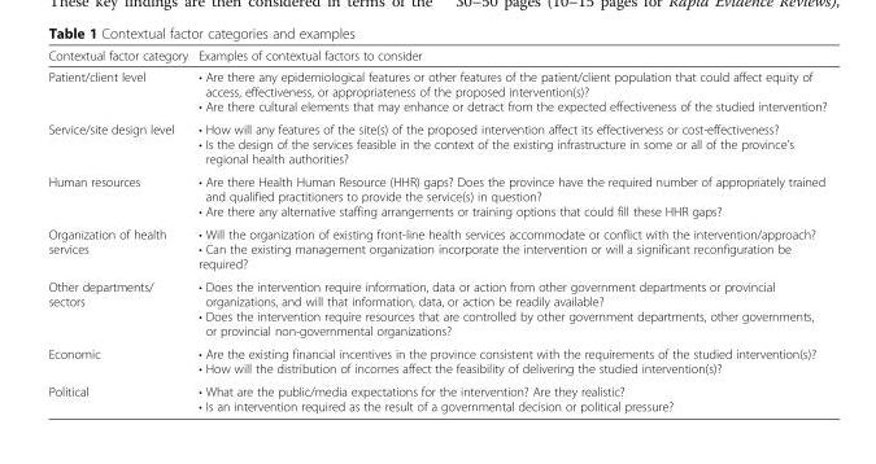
<table><thead><tr><td>Contextual factor category</td><td>Examples of contextual factors to consider</td></tr></thead><tbody><tr><td>Patient/client level</td><td>• Are there any epidemiological features or other features of the patient/client population that could affect equity of access, effectiveness, or appropriateness of the proposed intervention(s)? • Are there cultural elements that may enhance or detract from the expected effectiveness of the studied intervention?</td></tr><tr><td>Service/site design level</td><td>• How will any features of the site(s) of the proposed intervention affect its effectiveness or cost-effectiveness? • Is the design of the services feasible in the context of the existing infrastructure in some or all of the province’s regional health authorities?</td></tr><tr><td>Human resources</td><td>• Are there Health Human Resource (HHR) gaps? Does the province have the required number of appropriately trained and qualified practitioners to provide the service(s) in question? • Are there any alternative staffing arrangements or training options that could fill these HHR gaps?</td></tr><tr><td>Organization of health services</td><td>• Will the organization of existing front-line health services accommodate or conflict with the intervention/approach? • Can the existing management organization incorporate the intervention or will a significant reconfiguration be required?</td></tr><tr><td>Other departments/ sectors</td><td>• Does the intervention require information, data or action from other government departments or provincial organizations, and will that information, data, or action be readily available? • Does the intervention require resources that are controlled by other government departments, other governments, or provincial non-governmental organizations?</td></tr><tr><td>Economic</td><td>• Are the existing financial incentives in the province consistent with the requirements of the studied intervention(s)? • How will the distribution of incomes affect the feasibility of delivering the studied intervention(s)?</td></tr><tr><td>Political</td><td>• What are the public/media expectations for the intervention? Are they realistic? • Is an intervention required as the result of a governmental decision or political pressure?</td></tr></tbody></table>